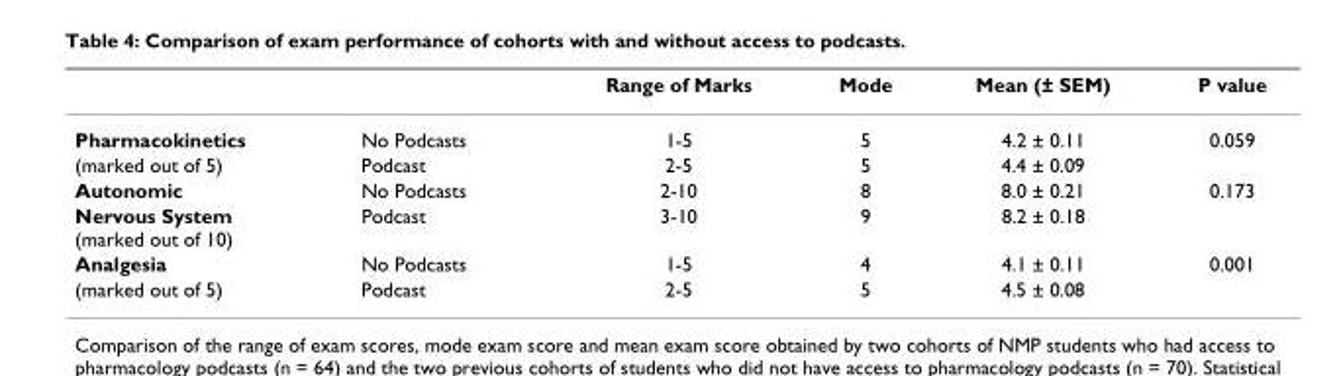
<table><thead><tr><td></td><td></td><td>Range of Marks</td><td>Mode</td><td>Mean (± SEM)</td><td>P value</td></tr></thead><tbody><tr><td>Pharmacokinetics</td><td>No Podcasts</td><td>1-5</td><td>5</td><td>4.2 ± 0.11</td><td>0.059</td></tr><tr><td>(marked out of 5)</td><td>Podcast</td><td>2-5</td><td>5</td><td>4.4 ± 0.09</td><td></td></tr><tr><td>Autonomic</td><td>No Podcasts</td><td>2-10</td><td>8</td><td>8.0 ± 0.21</td><td>0.173</td></tr><tr><td>Nervous System (marked out of 10)</td><td>Podcast</td><td>3-10</td><td>9</td><td>8.2 ± 0.18</td><td></td></tr><tr><td>Analgesia</td><td>No Podcasts</td><td>1-5</td><td>4</td><td>4.1 ± 0.11</td><td>0.001</td></tr><tr><td>(marked out of 5)</td><td>Podcast</td><td>2-5</td><td>5</td><td>4.5 ± 0.08</td><td></td></tr></tbody></table>